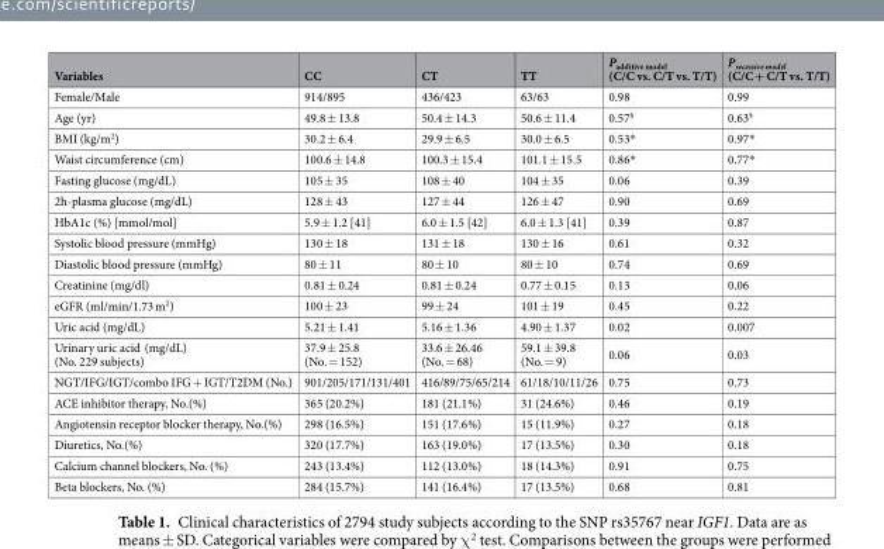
<table><thead><tr><td>Variables</td><td>CC</td><td>CT</td><td>TT</td><td>P<sub>additive model</sub> (C/C vs. C/T vs. T/T)</td><td>P<sub>recessive model</sub> (C/C + C/T vs. T/T)</td></tr></thead><tbody><tr><td>Female/Male</td><td>914/895</td><td>436/423</td><td>63/63</td><td>0.98</td><td>0.99</td></tr><tr><td>Age (yr)</td><td>49.8 ± 13.8</td><td>50.4 ± 14.3</td><td>50.6 ± 11.4</td><td>0.57<sup>§</sup></td><td>0.63<sup>§</sup></td></tr><tr><td>BMI (kg/m<sup>2</sup>)</td><td>30.2 ± 6.4</td><td>29.9 ± 6.5</td><td>30.0 ± 6.5</td><td>0.53*</td><td>0.97*</td></tr><tr><td>Waist circumference (cm)</td><td>100.6 ± 14.8</td><td>100.3 ± 15.4</td><td>101.1 ± 15.5</td><td>0.86*</td><td>0.77*</td></tr><tr><td>Fasting glucose (mg/dL)</td><td>105 ± 35</td><td>108 ± 40</td><td>104 ± 35</td><td>0.06</td><td>0.39</td></tr><tr><td>2h-plasma glucose (mg/dL)</td><td>128 ± 43</td><td>127 ± 44</td><td>126 ± 47</td><td>0.90</td><td>0.69</td></tr><tr><td>HbA1c (%) [mmol/mol]</td><td>5.9 ± 1.2 [41]</td><td>6.0 ± 1.5 [42]</td><td>6.0 ± 1.3 [41]</td><td>0.39</td><td>0.87</td></tr><tr><td>Systolic blood pressure (mmHg)</td><td>130 ± 18</td><td>131 ± 18</td><td>130 ± 16</td><td>0.61</td><td>0.32</td></tr><tr><td>Diastolic blood pressure (mmHg)</td><td>80 ± 11</td><td>80 ± 10</td><td>80 ± 10</td><td>0.74</td><td>0.69</td></tr><tr><td>Creatinine (mg/dl)</td><td>0.81 ± 0.24</td><td>0.81 ± 0.24</td><td>0.77 ± 0.15</td><td>0.13</td><td>0.06</td></tr><tr><td>eGFR (ml/min/1.73 m<sup>2</sup>)</td><td>100 ± 23</td><td>99 ± 24</td><td>101 ± 19</td><td>0.45</td><td>0.22</td></tr><tr><td>Uric acid (mg/dL)</td><td>5.21 ± 1.41</td><td>5.16 ± 1.36</td><td>4.90 ± 1.37</td><td>0.02</td><td>0.007</td></tr><tr><td>Urinary uric acid (mg/dL) (No. 229 subjects)</td><td>37.9 ± 25.8 (No. = 152)</td><td>33.6 ± 26.46 (No. = 68)</td><td>59.1 ± 39.8 (No. = 9)</td><td>0.06</td><td>0.03</td></tr><tr><td>NGT/IFG/IGT/combo IFG + IGT/T2DM (No.)</td><td>901/205/171/131/401</td><td>416/89/75/65/214</td><td>61/18/10/11/26</td><td>0.75</td><td>0.73</td></tr><tr><td>ACE inhibitor therapy, No.(%)</td><td>365 (20.2%)</td><td>181 (21.1%)</td><td>31 (24.6%)</td><td>0.46</td><td>0.19</td></tr><tr><td>Angiotensin receptor blocker therapy, No.(%)</td><td>298 (16.5%)</td><td>151 (17.6%)</td><td>15 (11.9%)</td><td>0.27</td><td>0.18</td></tr><tr><td>Diuretics, No.(%)</td><td>320 (17.7%)</td><td>163 (19.0%)</td><td>17 (13.5%)</td><td>0.30</td><td>0.18</td></tr><tr><td>Calcium channel blockers, No. (%)</td><td>243 (13.4%)</td><td>112 (13.0%)</td><td>18 (14.3%)</td><td>0.91</td><td>0.75</td></tr><tr><td>Beta blockers, No. (%)</td><td>284 (15.7%)</td><td>141 (16.4%)</td><td>17 (13.5%)</td><td>0.68</td><td>0.81</td></tr></tbody></table>